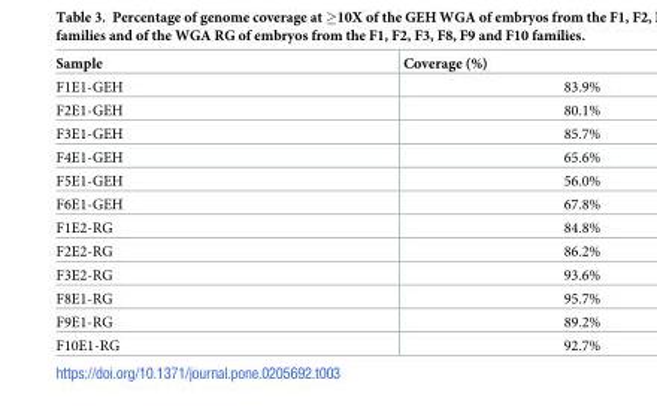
<table><thead><tr><td>Sample</td><td>Coverage (%)</td></tr></thead><tbody><tr><td>F1E1-GEH</td><td>83.9%</td></tr><tr><td>F2E1-GEH</td><td>80.1%</td></tr><tr><td>F3E1-GEH</td><td>85.7%</td></tr><tr><td>F4E1-GEH</td><td>65.6%</td></tr><tr><td>F5E1-GEH</td><td>56.0%</td></tr><tr><td>F6E1-GEH</td><td>67.8%</td></tr><tr><td>F1E2-RG</td><td>84.8%</td></tr><tr><td>F2E2-RG</td><td>86.2%</td></tr><tr><td>F3E2-RG</td><td>93.6%</td></tr><tr><td>F8E1-RG</td><td>95.7%</td></tr><tr><td>F9E1-RG</td><td>89.2%</td></tr><tr><td>F10E1-RG</td><td>92.7%</td></tr></tbody></table>